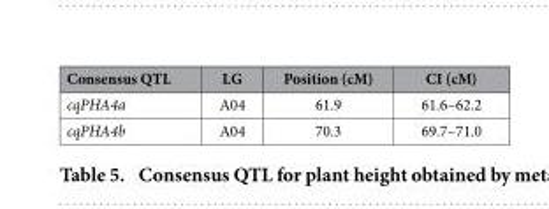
<table><thead><tr><td>Consensus QTL</td><td>LG</td><td>Position (cM)</td><td>CI (cM)</td></tr></thead><tbody><tr><td>cqPHA4a</td><td>A04</td><td>61.9</td><td>61.6–62.2</td></tr><tr><td>cqPHA4b</td><td>A04</td><td>70.3</td><td>69.7–71.0</td></tr></tbody></table>